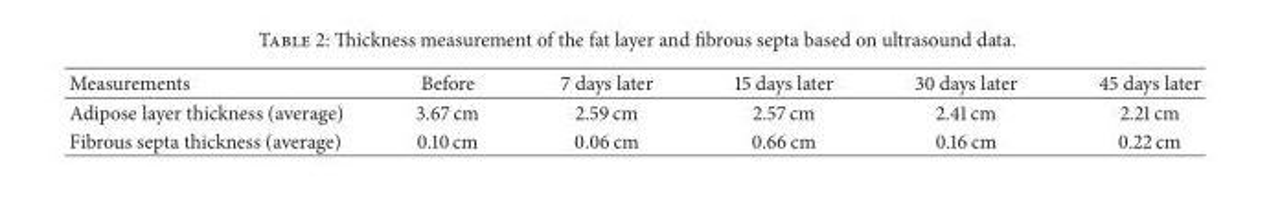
<table><thead><tr><td>Measurements</td><td>Before</td><td>7 days later</td><td>15 days later</td><td>30 days later</td><td>45 days later</td></tr></thead><tbody><tr><td>Adipose layer thickness (average)</td><td>3.67 cm</td><td>2.59 cm</td><td>2.57 cm</td><td>2.41 cm</td><td>2.21 cm</td></tr><tr><td>Fibrous septa thickness (average)</td><td>0.10 cm</td><td>0.06 cm</td><td>0.66 cm</td><td>0.16 cm</td><td>0.22 cm</td></tr></tbody></table>